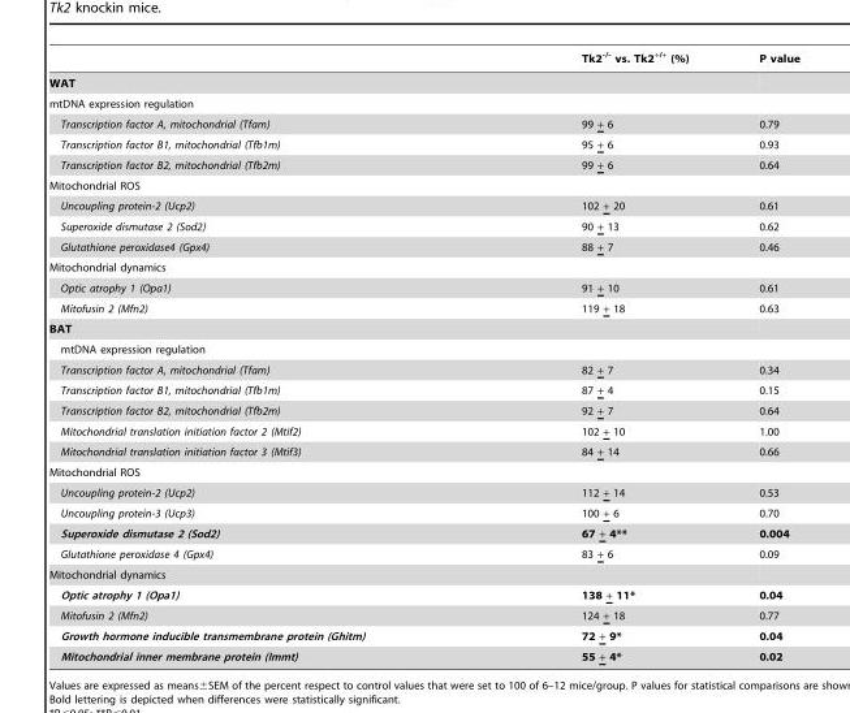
<table><thead><tr><td></td><td>Tk2<sup>-/-</sup> vs. Tk2<sup>+/+</sup> (%)</td><td>P value</td></tr></thead><tbody><tr><td colspan="3">WAT</td></tr><tr><td colspan="3">mtDNA expression regulation</td></tr><tr><td>Transcription factor A, mitochondrial (Tfam)</td><td>99 + 6</td><td>0.79</td></tr><tr><td>Transcription factor B1, mitochondrial (Tfb1m)</td><td>95 + 6</td><td>0.93</td></tr><tr><td>Transcription factor B2, mitochondrial (Tfb2m)</td><td>99 + 6</td><td>0.64</td></tr><tr><td colspan="3">Mitochondrial ROS</td></tr><tr><td>Uncoupling protein-2 (Ucp2)</td><td>102 + 20</td><td>0.61</td></tr><tr><td>Superoxide dismutase 2 (Sod2)</td><td>90 + 13</td><td>0.62</td></tr><tr><td>Glutathione peroxidase4 (Gpx4)</td><td>88 + 7</td><td>0.46</td></tr><tr><td colspan="3">Mitochondrial dynamics</td></tr><tr><td>Optic atrophy 1 (Opa1)</td><td>91 + 10</td><td>0.61</td></tr><tr><td>Mitofusin 2 (Mfn2)</td><td>119 + 18</td><td>0.63</td></tr><tr><td colspan="3">BAT</td></tr><tr><td colspan="3">mtDNA expression regulation</td></tr><tr><td>Transcription factor A, mitochondrial (Tfam)</td><td>82 + 7</td><td>0.34</td></tr><tr><td>Transcription factor B1, mitochondrial (Tfb1m)</td><td>87 + 4</td><td>0.15</td></tr><tr><td>Transcription factor B2, mitochondrial (Tfb2m)</td><td>92 + 7</td><td>0.64</td></tr><tr><td>Mitochondrial translation initiation factor 2 (Mtif2)</td><td>102 + 10</td><td>1.00</td></tr><tr><td>Mitochondrial translation initiation factor 3 (Mtif3)</td><td>84 + 14</td><td>0.66</td></tr><tr><td colspan="3">Mitochondrial ROS</td></tr><tr><td>Uncoupling protein-2 (Ucp2)</td><td>112 + 14</td><td>0.53</td></tr><tr><td>Uncoupling protein-3 (Ucp3)</td><td>100 + 6</td><td>0.70</td></tr><tr><td>Superoxide dismutase 2 (Sod2)</td><td>67 + 4**</td><td>0.004</td></tr><tr><td>Glutathione peroxidase 4 (Gpx4)</td><td>83 + 6</td><td>0.09</td></tr><tr><td colspan="3">Mitochondrial dynamics</td></tr><tr><td>Optic atrophy 1 (Opa1)</td><td>138 + 11*</td><td>0.04</td></tr><tr><td>Mitofusin 2 (Mfn2)</td><td>124 + 18</td><td>0.77</td></tr><tr><td>Growth hormone inducible transmembrane protein (Ghitm)</td><td>72 + 9*</td><td>0.04</td></tr><tr><td>Mitochondrial inner membrane protein (Immt)</td><td>55 + 4*</td><td>0.02</td></tr></tbody></table>